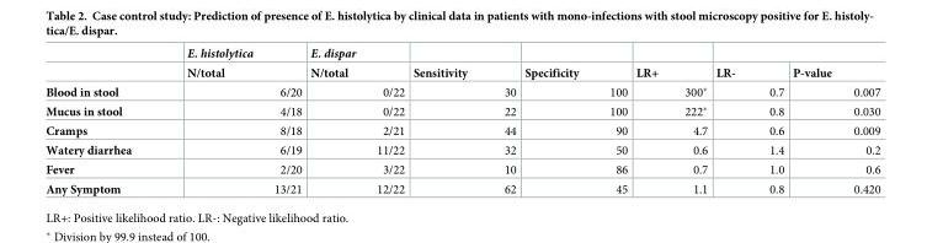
<table><thead><tr><td rowspan="2"></td><td rowspan="2">E. histolytica N/total</td><td rowspan="2">E. dispar N/total</td><td rowspan="2">Sensitivity</td><td rowspan="2">Specificity</td><td rowspan="2">LR+</td><td rowspan="2">LR-</td><td rowspan="2">P-value</td></tr><tr></tr></thead><tbody><tr><td>Blood in stool</td><td>6/20</td><td>0/22</td><td>30</td><td>100</td><td>300*</td><td>0.7</td><td>0.007</td></tr><tr><td>Mucus in stool</td><td>4/18</td><td>0/22</td><td>22</td><td>100</td><td>222*</td><td>0.8</td><td>0.030</td></tr><tr><td>Cramps</td><td>8/18</td><td>2/21</td><td>44</td><td>90</td><td>4.7</td><td>0.6</td><td>0.009</td></tr><tr><td>Watery diarrhea</td><td>6/19</td><td>11/22</td><td>32</td><td>50</td><td>0.6</td><td>1.4</td><td>0.2</td></tr><tr><td>Fever</td><td>2/20</td><td>3/22</td><td>10</td><td>86</td><td>0.7</td><td>1.0</td><td>0.6</td></tr><tr><td>Any Symptom</td><td>13/21</td><td>12/22</td><td>62</td><td>45</td><td>1.1</td><td>0.8</td><td>0.420</td></tr></tbody></table>